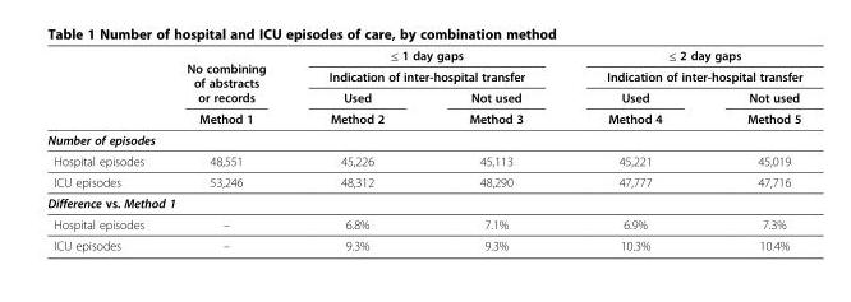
<table><thead><tr><td rowspan="4"></td><td rowspan="4">No combining of abstracts or records Method 1</td><td rowspan="2" colspan="2">≤ 1 day gaps Indication of inter-hospital transfer</td><td rowspan="2" colspan="2">≤ 2 day gaps Indication of inter-hospital transfer</td></tr><tr></tr><tr><td rowspan="2">Used Method 2</td><td rowspan="2">Not used Method 3</td><td rowspan="2">Used Method 4</td><td rowspan="2">Not used Method 5</td></tr><tr></tr></thead><tbody><tr><td colspan="6">Number of episodes</td></tr><tr><td>Hospital episodes</td><td>48,551</td><td>45,226</td><td>45,113</td><td>45,221</td><td>45,019</td></tr><tr><td>ICU episodes</td><td>53,246</td><td>48,312</td><td>48,290</td><td>47,777</td><td>47,716</td></tr><tr><td colspan="6">Difference vs. Method 1</td></tr><tr><td>Hospital episodes</td><td>–</td><td>6.8%</td><td>7.1%</td><td>6.9%</td><td>7.3%</td></tr><tr><td>ICU episodes</td><td>–</td><td>9.3%</td><td>9.3%</td><td>10.3%</td><td>10.4%</td></tr></tbody></table>